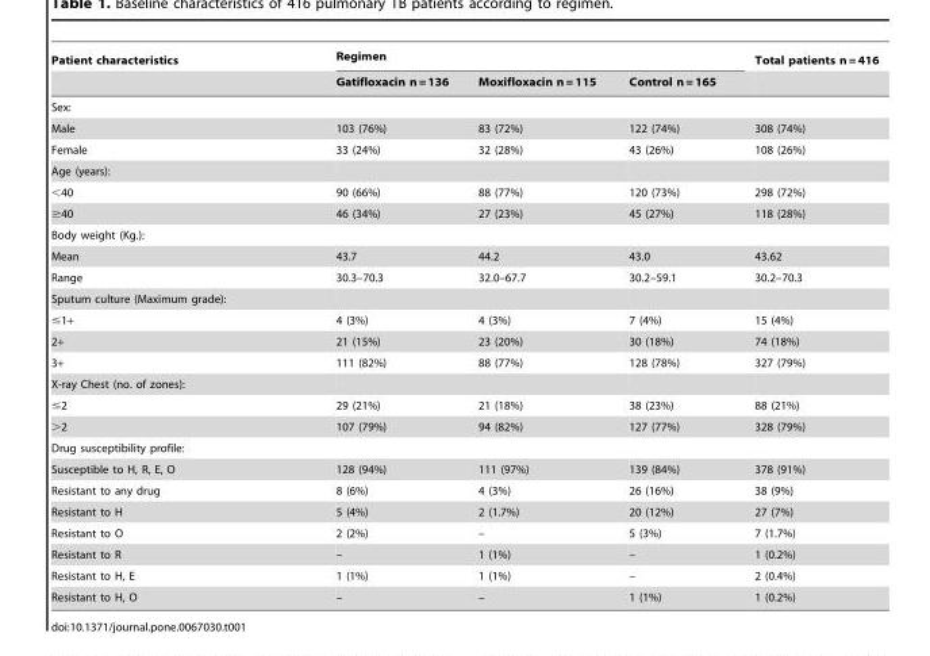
<table><thead><tr><td rowspan="2">Patient characteristics</td><td colspan="3">Regimen</td><td rowspan="2">Total patients n = 416</td></tr><tr><td>Gatifloxacin n = 136</td><td>Moxifloxacin n = 115</td><td>Control n = 165</td></tr></thead><tbody><tr><td colspan="5">Sex:</td></tr><tr><td>Male</td><td>103 (76%)</td><td>83 (72%)</td><td>122 (74%)</td><td>308 (74%)</td></tr><tr><td>Female</td><td>33 (24%)</td><td>32 (28%)</td><td>43 (26%)</td><td>108 (26%)</td></tr><tr><td colspan="5">Age (years):</td></tr><tr><td>&lt;40</td><td>90 (66%)</td><td>88 (77%)</td><td>120 (73%)</td><td>298 (72%)</td></tr><tr><td>≥40</td><td>46 (34%)</td><td>27 (23%)</td><td>45 (27%)</td><td>118 (28%)</td></tr><tr><td colspan="5">Body weight (Kg.):</td></tr><tr><td>Mean</td><td>43.7</td><td>44.2</td><td>43.0</td><td>43.62</td></tr><tr><td>Range</td><td>30.3–70.3</td><td>32.0–67.7</td><td>30.2–59.1</td><td>30.2–70.3</td></tr><tr><td colspan="5">Sputum culture (Maximum grade):</td></tr><tr><td>≤1+</td><td>4 (3%)</td><td>4 (3%)</td><td>7 (4%)</td><td>15 (4%)</td></tr><tr><td>2+</td><td>21 (15%)</td><td>23 (20%)</td><td>30 (18%)</td><td>74 (18%)</td></tr><tr><td>3+</td><td>111 (82%)</td><td>88 (77%)</td><td>128 (78%)</td><td>327 (79%)</td></tr><tr><td colspan="5">X-ray Chest (no. of zones):</td></tr><tr><td>≤2</td><td>29 (21%)</td><td>21 (18%)</td><td>38 (23%)</td><td>88 (21%)</td></tr><tr><td>&gt;2</td><td>107 (79%)</td><td>94 (82%)</td><td>127 (77%)</td><td>328 (79%)</td></tr><tr><td colspan="5">Drug susceptibility profile:</td></tr><tr><td>Susceptible to H, R, E, O</td><td>128 (94%)</td><td>111 (97%)</td><td>139 (84%)</td><td>378 (91%)</td></tr><tr><td>Resistant to any drug</td><td>8 (6%)</td><td>4 (3%)</td><td>26 (16%)</td><td>38 (9%)</td></tr><tr><td>Resistant to H</td><td>5 (4%)</td><td>2 (1.7%)</td><td>20 (12%)</td><td>27 (7%)</td></tr><tr><td>Resistant to O</td><td>2 (2%)</td><td>–</td><td>5 (3%)</td><td>7 (1.7%)</td></tr><tr><td>Resistant to R</td><td>–</td><td>1 (1%)</td><td>–</td><td>1 (0.2%)</td></tr><tr><td>Resistant to H, E</td><td>1 (1%)</td><td>1 (1%)</td><td>–</td><td>2 (0.4%)</td></tr><tr><td>Resistant to H, O</td><td>–</td><td>–</td><td>1 (1%)</td><td>1 (0.2%)</td></tr></tbody></table>